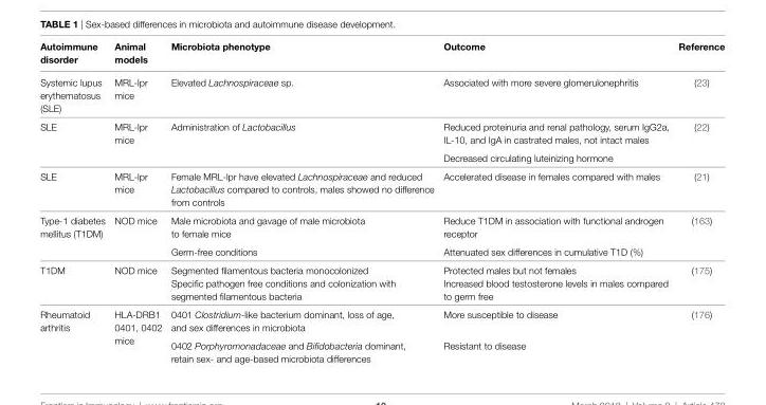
<table><thead><tr><td>Autoimmune disorder</td><td>Animal models</td><td>Microbiota phenotype</td><td>Outcome</td><td>Reference</td></tr></thead><tbody><tr><td>Systemic lupus erythematosus (SLE)</td><td>MRL-lpr mice</td><td>Elevated Lachnospiraceae sp.</td><td>Associated with more severe glomerulonephritis</td><td>(23)</td></tr><tr><td rowspan="2">SLE</td><td rowspan="2">MRL-lpr mice</td><td rowspan="2">Administration of Lactobacillus</td><td>Reduced proteinuria and renal pathology, serum IgG2a, IL-10, and IgA in castrated males, not intact males</td><td rowspan="2">(22)</td></tr><tr><td>Decreased circulating luteinizing hormone</td></tr><tr><td>SLE</td><td>MRL-lpr mice</td><td>Female MRL-lpr have elevated Lachnospiraceae and reduced Lactobacillus compared to controls, males showed no difference from controls</td><td>Accelerated disease in females compared with males</td><td>(21)</td></tr><tr><td rowspan="2">Type-1 diabetes mellitus (T1DM)</td><td rowspan="2">NOD mice</td><td>Male microbiota and gavage of male microbiota to female mice</td><td>Reduce T1DM in association with functional androgen receptor</td><td rowspan="2">(163)</td></tr><tr><td>Germ-free conditions</td><td>Attenuated sex differences in cumulative T1D (%)</td></tr><tr><td rowspan="2">T1DM</td><td rowspan="2">NOD mice</td><td>Segmented filamentous bacteria monocolonized</td><td>Protected males but not females</td><td rowspan="2">(175)</td></tr><tr><td>Specific pathogen free conditions and colonization with segmented filamentous bacteria</td><td>Increased blood testosterone levels in males compared to germ free</td></tr><tr><td rowspan="2">Rheumatoid arthritis</td><td rowspan="2">HLA-DRB1 0401, 0402 mice</td><td>0401 Clostridium-like bacterium dominant, loss of age, and sex differences in microbiota</td><td>More susceptible to disease</td><td rowspan="2">(176)</td></tr><tr><td>0402 Porphyromonadaceae and Bifidobacteria dominant, retain sex- and age-based microbiota differences</td><td>Resistant to disease</td></tr></tbody></table>